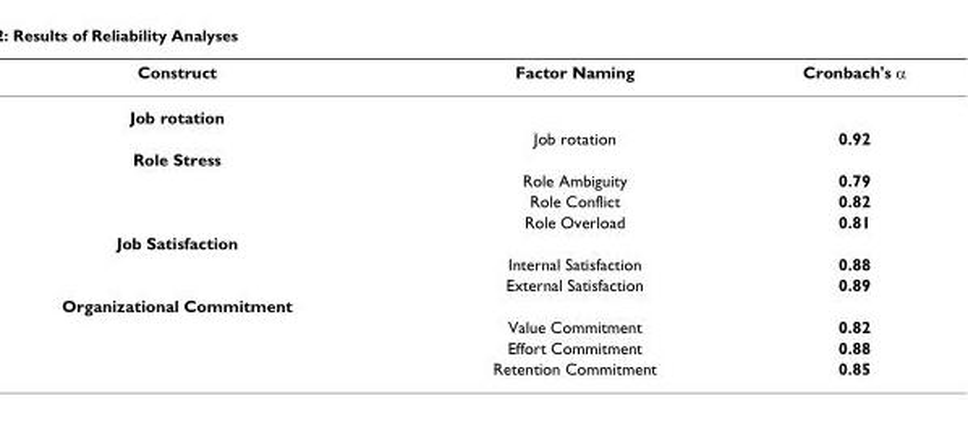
<table><thead><tr><td>Construct</td><td>Factor Naming</td><td>Cronbach&#x27;s α</td></tr></thead><tbody><tr><td colspan="3">Job rotation</td></tr><tr><td></td><td>Job rotation</td><td>0.92</td></tr><tr><td colspan="3">Role Stress</td></tr><tr><td></td><td>Role Ambiguity</td><td>0.79</td></tr><tr><td></td><td>Role Conflict</td><td>0.82</td></tr><tr><td></td><td>Role Overload</td><td>0.81</td></tr><tr><td colspan="3">Job Satisfaction</td></tr><tr><td></td><td>Internal Satisfaction</td><td>0.88</td></tr><tr><td></td><td>External Satisfaction</td><td>0.89</td></tr><tr><td colspan="3">Organizational Commitment</td></tr><tr><td></td><td>Value Commitment</td><td>0.82</td></tr><tr><td></td><td>Effort Commitment</td><td>0.88</td></tr><tr><td></td><td>Retention Commitment</td><td>0.85</td></tr></tbody></table>